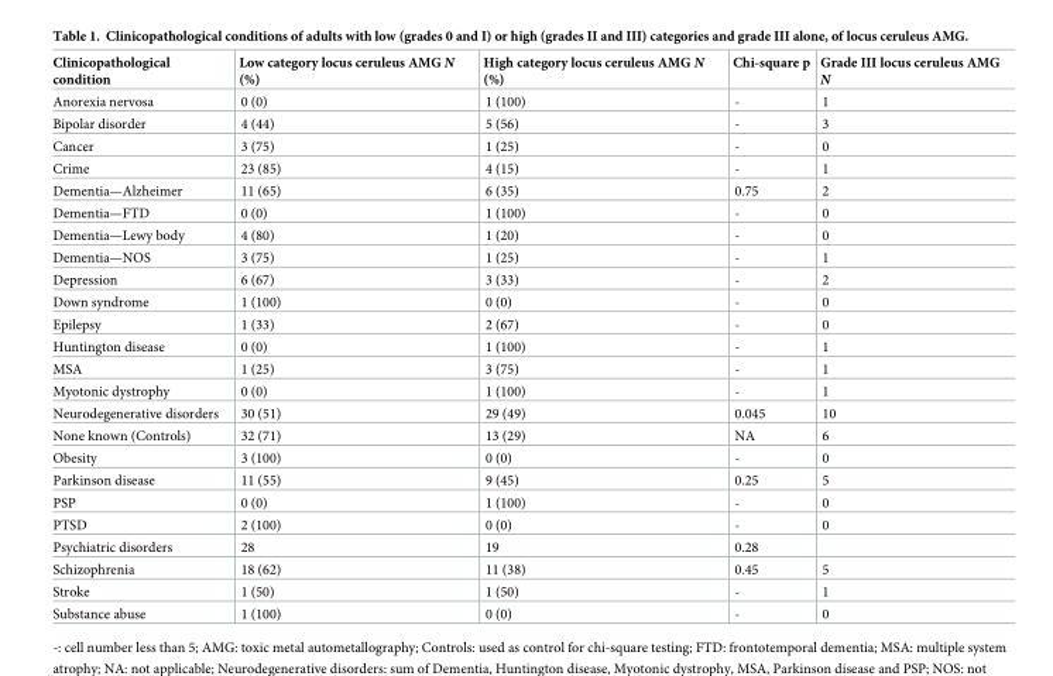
<table><thead><tr><td>Clinicopathological condition</td><td>Low category locus ceruleus AMG N (%)</td><td>High category locus ceruleus AMG N (%)</td><td>Chi-square p</td><td>Grade III locus ceruleus AMG N</td></tr></thead><tbody><tr><td>Anorexia nervosa</td><td>0 (0)</td><td>1 (100)</td><td>-</td><td>1</td></tr><tr><td>Bipolar disorder</td><td>4 (44)</td><td>5 (56)</td><td>-</td><td>3</td></tr><tr><td>Cancer</td><td>3 (75)</td><td>1 (25)</td><td>-</td><td>0</td></tr><tr><td>Crime</td><td>23 (85)</td><td>4 (15)</td><td>-</td><td>1</td></tr><tr><td>Dementia—Alzheimer</td><td>11 (65)</td><td>6 (35)</td><td>0.75</td><td>2</td></tr><tr><td>Dementia—FTD</td><td>0 (0)</td><td>1 (100)</td><td>-</td><td>0</td></tr><tr><td>Dementia—Lewy body</td><td>4 (80)</td><td>1 (20)</td><td>-</td><td>0</td></tr><tr><td>Dementia—NOS</td><td>3 (75)</td><td>1 (25)</td><td>-</td><td>1</td></tr><tr><td>Depression</td><td>6 (67)</td><td>3 (33)</td><td>-</td><td>2</td></tr><tr><td>Down syndrome</td><td>1 (100)</td><td>0 (0)</td><td>-</td><td>0</td></tr><tr><td>Epilepsy</td><td>1 (33)</td><td>2 (67)</td><td>-</td><td>0</td></tr><tr><td>Huntington disease</td><td>0 (0)</td><td>1 (100)</td><td>-</td><td>1</td></tr><tr><td>MSA</td><td>1 (25)</td><td>3 (75)</td><td>-</td><td>1</td></tr><tr><td>Myotonic dystrophy</td><td>0 (0)</td><td>1 (100)</td><td>-</td><td>1</td></tr><tr><td>Neurodegenerative disorders</td><td>30 (51)</td><td>29 (49)</td><td>0.045</td><td>10</td></tr><tr><td>None known (Controls)</td><td>32 (71)</td><td>13 (29)</td><td>NA</td><td>6</td></tr><tr><td>Obesity</td><td>3 (100)</td><td>0 (0)</td><td>-</td><td>0</td></tr><tr><td>Parkinson disease</td><td>11 (55)</td><td>9 (45)</td><td>0.25</td><td>5</td></tr><tr><td>PSP</td><td>0 (0)</td><td>1 (100)</td><td>-</td><td>0</td></tr><tr><td>PTSD</td><td>2 (100)</td><td>0 (0)</td><td>-</td><td>0</td></tr><tr><td>Psychiatric disorders</td><td>28</td><td>19</td><td>0.28</td><td></td></tr><tr><td>Schizophrenia</td><td>18 (62)</td><td>11 (38)</td><td>0.45</td><td>5</td></tr><tr><td>Stroke</td><td>1 (50)</td><td>1 (50)</td><td>-</td><td>1</td></tr><tr><td>Substance abuse</td><td>1 (100)</td><td>0 (0)</td><td>-</td><td>0</td></tr></tbody></table>